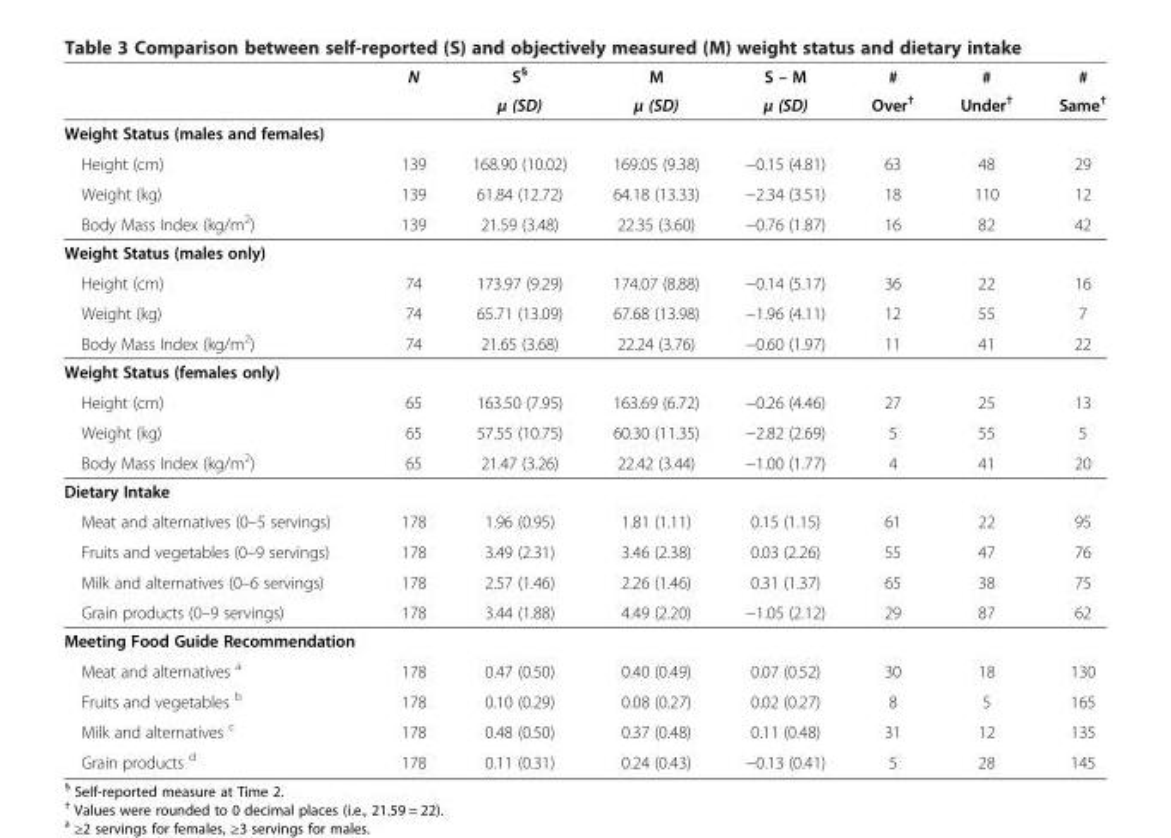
<table><thead><tr><td rowspan="2"></td><td rowspan="2">N</td><td rowspan="2">S<sup>§</sup> μ (SD)</td><td rowspan="2">M μ (SD)</td><td rowspan="2">S – M μ (SD)</td><td rowspan="2"># Over<sup>†</sup></td><td rowspan="2"># Under<sup>†</sup></td><td rowspan="2"># Same<sup>†</sup></td></tr><tr></tr></thead><tbody><tr><td colspan="8">Weight Status (males and females)</td></tr><tr><td>Height (cm)</td><td>139</td><td>168.90 (10.02)</td><td>169.05 (9.38)</td><td>−0.15 (4.81)</td><td>63</td><td>48</td><td>29</td></tr><tr><td>Weight (kg)</td><td>139</td><td>61.84 (12.72)</td><td>64.18 (13.33)</td><td>−2.34 (3.51)</td><td>18</td><td>110</td><td>12</td></tr><tr><td>Body Mass Index (kg/m<sup>2</sup>)</td><td>139</td><td>21.59 (3.48)</td><td>22.35 (3.60)</td><td>−0.76 (1.87)</td><td>16</td><td>82</td><td>42</td></tr><tr><td colspan="8">Weight Status (males only)</td></tr><tr><td>Height (cm)</td><td>74</td><td>173.97 (9.29)</td><td>174.07 (8.88)</td><td>−0.14 (5.17)</td><td>36</td><td>22</td><td>16</td></tr><tr><td>Weight (kg)</td><td>74</td><td>65.71 (13.09)</td><td>67.68 (13.98)</td><td>−1.96 (4.11)</td><td>12</td><td>55</td><td>7</td></tr><tr><td>Body Mass Index (kg/m<sup>2</sup>)</td><td>74</td><td>21.65 (3.68)</td><td>22.24 (3.76)</td><td>−0.60 (1.97)</td><td>11</td><td>41</td><td>22</td></tr><tr><td colspan="8">Weight Status (females only)</td></tr><tr><td>Height (cm)</td><td>65</td><td>163.50 (7.95)</td><td>163.69 (6.72)</td><td>−0.26 (4.46)</td><td>27</td><td>25</td><td>13</td></tr><tr><td>Weight (kg)</td><td>65</td><td>57.55 (10.75)</td><td>60.30 (11.35)</td><td>−2.82 (2.69)</td><td>5</td><td>55</td><td>5</td></tr><tr><td>Body Mass Index (kg/m<sup>2</sup>)</td><td>65</td><td>21.47 (3.26)</td><td>22.42 (3.44)</td><td>−1.00 (1.77)</td><td>4</td><td>41</td><td>20</td></tr><tr><td colspan="8">Dietary Intake</td></tr><tr><td>Meat and alternatives (0–5 servings)</td><td>178</td><td>1.96 (0.95)</td><td>1.81 (1.11)</td><td>0.15 (1.15)</td><td>61</td><td>22</td><td>95</td></tr><tr><td>Fruits and vegetables (0–9 servings)</td><td>178</td><td>3.49 (2.31)</td><td>3.46 (2.38)</td><td>0.03 (2.26)</td><td>55</td><td>47</td><td>76</td></tr><tr><td>Milk and alternatives (0–6 servings)</td><td>178</td><td>2.57 (1.46)</td><td>2.26 (1.46)</td><td>0.31 (1.37)</td><td>65</td><td>38</td><td>75</td></tr><tr><td>Grain products (0–9 servings)</td><td>178</td><td>3.44 (1.88)</td><td>4.49 (2.20)</td><td>−1.05 (2.12)</td><td>29</td><td>87</td><td>62</td></tr><tr><td colspan="8">Meeting Food Guide Recommendation</td></tr><tr><td>Meat and alternatives <sup>a</sup></td><td>178</td><td>0.47 (0.50)</td><td>0.40 (0.49)</td><td>0.07 (0.52)</td><td>30</td><td>18</td><td>130</td></tr><tr><td>Fruits and vegetables <sup>b</sup></td><td>178</td><td>0.10 (0.29)</td><td>0.08 (0.27)</td><td>0.02 (0.27)</td><td>8</td><td>5</td><td>165</td></tr><tr><td>Milk and alternatives <sup>c</sup></td><td>178</td><td>0.48 (0.50)</td><td>0.37 (0.48)</td><td>0.11 (0.48)</td><td>31</td><td>12</td><td>135</td></tr><tr><td>Grain products <sup>d</sup></td><td>178</td><td>0.11 (0.31)</td><td>0.24 (0.43)</td><td>−0.13 (0.41)</td><td>5</td><td>28</td><td>145</td></tr></tbody></table>